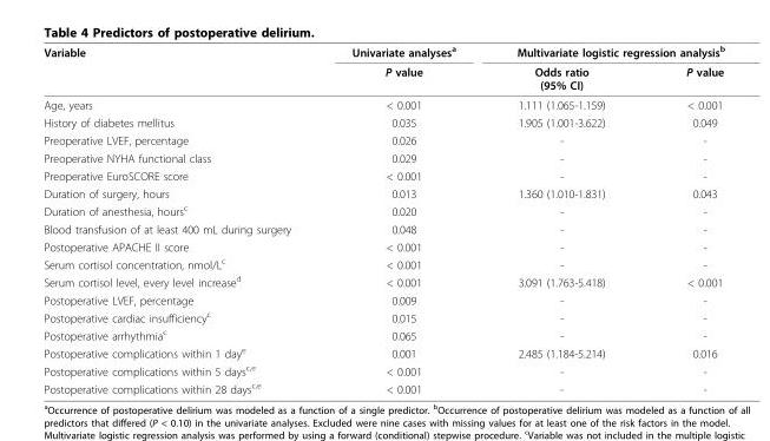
<table><thead><tr><td rowspan="2">Variable</td><td rowspan="2">Univariate analyses<sup>a</sup> P value</td><td colspan="2">Multivariate logistic regression analysis<sup>b</sup></td></tr><tr><td>Odds ratio (95% CI)</td><td>P value</td></tr></thead><tbody><tr><td>Age, years</td><td>&lt; 0.001</td><td>1.111 (1.065-1.159)</td><td>&lt; 0.001</td></tr><tr><td>History of diabetes mellitus</td><td>0.035</td><td>1.905 (1.001-3.622)</td><td>0.049</td></tr><tr><td>Preoperative LVEF, percentage</td><td>0.026</td><td>-</td><td>-</td></tr><tr><td>Preoperative NYHA functional class</td><td>0.029</td><td>-</td><td>-</td></tr><tr><td>Preoperative EuroSCORE score</td><td>&lt; 0.001</td><td>-</td><td>-</td></tr><tr><td>Duration of surgery, hours</td><td>0.013</td><td>1.360 (1.010-1.831)</td><td>0.043</td></tr><tr><td>Duration of anesthesia, hours<sup>c</sup></td><td>0.020</td><td>-</td><td>-</td></tr><tr><td>Blood transfusion of at least 400 mL during surgery</td><td>0.048</td><td>-</td><td>-</td></tr><tr><td>Postoperative APACHE II score</td><td>&lt; 0.001</td><td>-</td><td>-</td></tr><tr><td>Serum cortisol concentration, nmol/L<sup>c</sup></td><td>&lt; 0.001</td><td>-</td><td>-</td></tr><tr><td>Serum cortisol level, every level increase<sup>d</sup></td><td>&lt; 0.001</td><td>3.091 (1.763-5.418)</td><td>&lt; 0.001</td></tr><tr><td>Postoperative LVEF, percentage</td><td>0.009</td><td>-</td><td>-</td></tr><tr><td>Postoperative cardiac insufficiency<sup>c</sup></td><td>0.015</td><td>-</td><td>-</td></tr><tr><td>Postoperative arrhythmia<sup>c</sup></td><td>0.065</td><td>-</td><td>-</td></tr><tr><td>Postoperative complications within 1 day<sup>e</sup></td><td>0.001</td><td>2.485 (1.184-5.214)</td><td>0.016</td></tr><tr><td>Postoperative complications within 5 days<sup>c,e</sup></td><td>&lt; 0.001</td><td>-</td><td>-</td></tr><tr><td>Postoperative complications within 28 days<sup>c,e</sup></td><td>&lt; 0.001</td><td>-</td><td>-</td></tr></tbody></table>